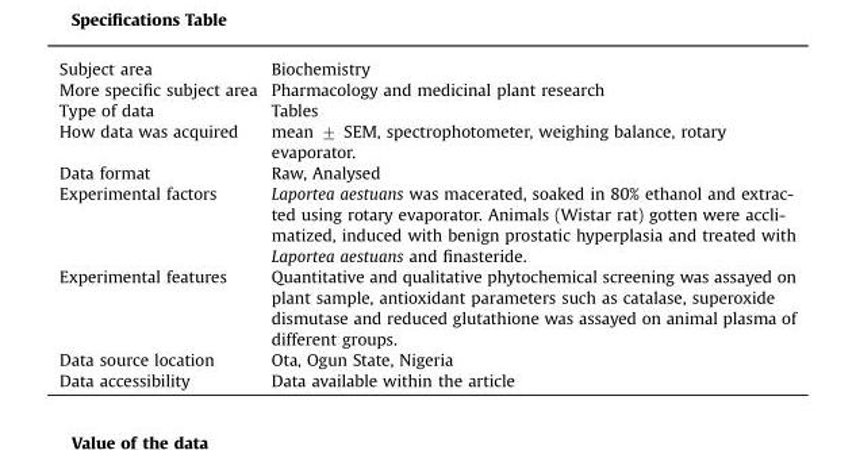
<table><thead><tr><td>Subject area</td><td>Biochemistry</td></tr></thead><tbody><tr><td>More specific subject area</td><td>Pharmacology and medicinal plant research</td></tr><tr><td>Type of data</td><td>Tables</td></tr><tr><td>How data was acquired</td><td>mean ± SEM, spectrophotometer, weighing balance, rotary evaporator.</td></tr><tr><td>Data format</td><td>Raw, Analysed</td></tr><tr><td>Experimental factors</td><td>Laportea aestuans was macerated, soaked in 80% ethanol and extrac- ted using rotary evaporator. Animals (Wistar rat) gotten were accli- matized, induced with benign prostatic hyperplasia and treated with Laportea aestuans and finasteride.</td></tr><tr><td>Experimental features</td><td>Quantitative and qualitative phytochemical screening was assayed on plant sample, antioxidant parameters such as catalase, superoxide dismutase and reduced glutathione was assayed on animal plasma of different groups.</td></tr><tr><td>Data source location</td><td>Ota, Ogun State, Nigeria</td></tr><tr><td>Data accessibility</td><td>Data available within the article</td></tr></tbody></table>